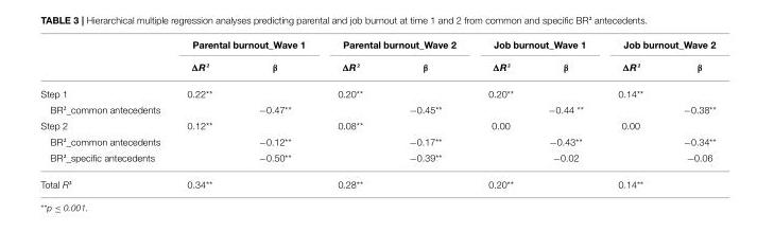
<table><thead><tr><td rowspan="2"></td><td colspan="2">Parental burnout_Wave 1</td><td colspan="2">Parental burnout_Wave 2</td><td colspan="2">Job burnout_Wave 1</td><td colspan="2">Job burnout_Wave 2</td></tr><tr><td>ΔR²</td><td>β</td><td>ΔR²</td><td>β</td><td>ΔR²</td><td>β</td><td>ΔR²</td><td>β</td></tr></thead><tbody><tr><td>Step 1</td><td>0.22**</td><td></td><td>0.20**</td><td></td><td>0.20**</td><td></td><td>0.14**</td><td></td></tr><tr><td>BR²_common antecedents</td><td></td><td>−0.47**</td><td></td><td>−0.45**</td><td></td><td>−0.44 **</td><td></td><td>−0.38**</td></tr><tr><td>Step 2</td><td>0.12**</td><td></td><td>0.08**</td><td></td><td>0.00</td><td></td><td>0.00</td><td></td></tr><tr><td>BR²_common antecedents</td><td></td><td>−0.12**</td><td></td><td>−0.17**</td><td></td><td>−0.43**</td><td></td><td>−0.34**</td></tr><tr><td>BR²_specific antecedents</td><td></td><td>−0.50**</td><td></td><td>−0.39**</td><td></td><td>−0.02</td><td></td><td>−0.06</td></tr><tr><td>Total R²</td><td>0.34**</td><td></td><td>0.28**</td><td></td><td>0.20**</td><td></td><td>0.14**</td><td></td></tr></tbody></table>